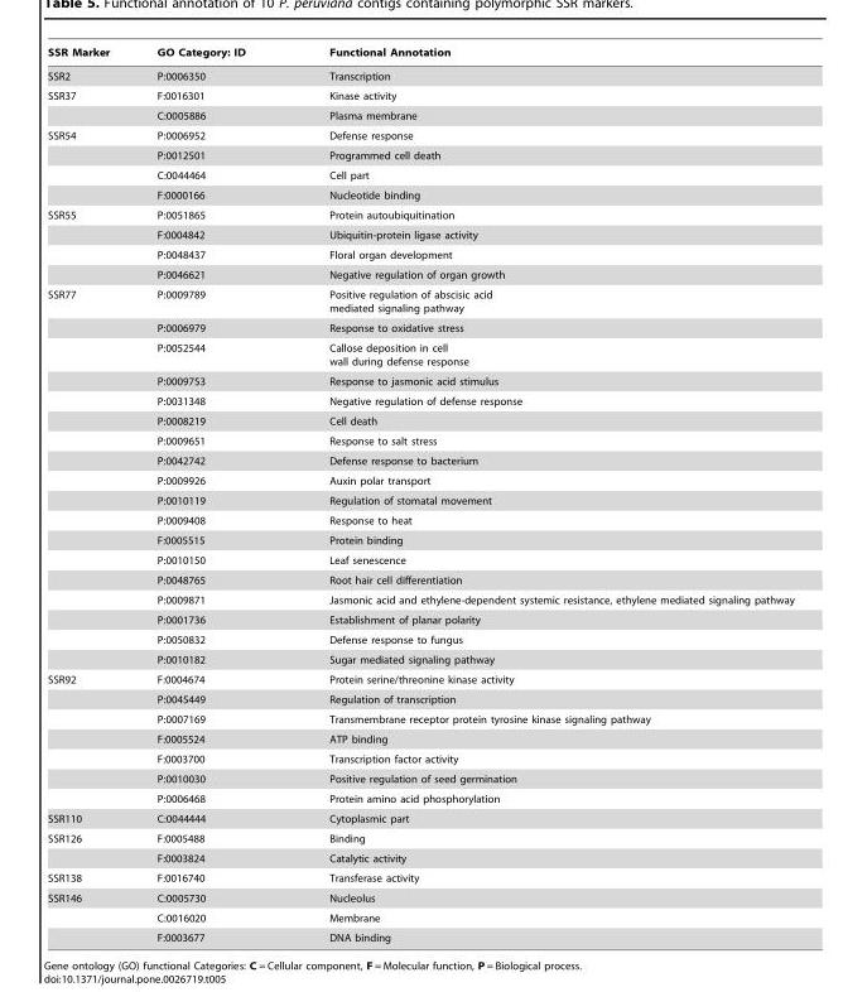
<table><thead><tr><td>SSR Marker</td><td>GO Category: ID</td><td>Functional Annotation</td></tr></thead><tbody><tr><td>SSR2</td><td>P:0006350</td><td>Transcription</td></tr><tr><td rowspan="2">SSR37</td><td>F:0016301</td><td>Kinase activity</td></tr><tr><td>C:0005886</td><td>Plasma membrane</td></tr><tr><td rowspan="4">SSR54</td><td>P:0006952</td><td>Defense response</td></tr><tr><td>P:0012501</td><td>Programmed cell death</td></tr><tr><td>C:0044464</td><td>Cell part</td></tr><tr><td>F:0000166</td><td>Nucleotide binding</td></tr><tr><td rowspan="4">SSR55</td><td>P:0051865</td><td>Protein autoubiquitination</td></tr><tr><td>F:0004842</td><td>Ubiquitin-protein ligase activity</td></tr><tr><td>P:0048437</td><td>Floral organ development</td></tr><tr><td>P:0046621</td><td>Negative regulation of organ growth</td></tr><tr><td rowspan="18">SSR77</td><td>P:0009789</td><td>Positive regulation of abscisic acid mediated signaling pathway</td></tr><tr><td>P:0006979</td><td>Response to oxidative stress</td></tr><tr><td>P:0052544</td><td>Callose deposition in cell wall during defense response</td></tr><tr><td>P:0009753</td><td>Response to jasmonic acid stimulus</td></tr><tr><td>P:0031348</td><td>Negative regulation of defense response</td></tr><tr><td>P:0008219</td><td>Cell death</td></tr><tr><td>P:0009651</td><td>Response to salt stress</td></tr><tr><td>P:0042742</td><td>Defense response to bacterium</td></tr><tr><td>P:0009926</td><td>Auxin polar transport</td></tr><tr><td>P:0010119</td><td>Regulation of stomatal movement</td></tr><tr><td>P:0009408</td><td>Response to heat</td></tr><tr><td>F:0005515</td><td>Protein binding</td></tr><tr><td>P:0010150</td><td>Leaf senescence</td></tr><tr><td>P:0048765</td><td>Root hair cell differentiation</td></tr><tr><td>P:0009871</td><td>Jasmonic acid and ethylene-dependent systemic resistance, ethylene mediated signaling pathway</td></tr><tr><td>P:0001736</td><td>Establishment of planar polarity</td></tr><tr><td>P:0050832</td><td>Defense response to fungus</td></tr><tr><td>P:0010182</td><td>Sugar mediated signaling pathway</td></tr><tr><td rowspan="7">SSR92</td><td>F:0004674</td><td>Protein serine/threonine kinase activity</td></tr><tr><td>P:0045449</td><td>Regulation of transcription</td></tr><tr><td>P:0007169</td><td>Transmembrane receptor protein tyrosine kinase signaling pathway</td></tr><tr><td>F:0005524</td><td>ATP binding</td></tr><tr><td>F:0003700</td><td>Transcription factor activity</td></tr><tr><td>P:0010030</td><td>Positive regulation of seed germination</td></tr><tr><td>P:0006468</td><td>Protein amino acid phosphorylation</td></tr><tr><td>SSR110</td><td>C:0044444</td><td>Cytoplasmic part</td></tr><tr><td rowspan="2">SSR126</td><td>F:0005488</td><td>Binding</td></tr><tr><td>F:0003824</td><td>Catalytic activity</td></tr><tr><td>SSR138</td><td>F:0016740</td><td>Transferase activity</td></tr><tr><td rowspan="3">SSR146</td><td>C:0005730</td><td>Nucleolus</td></tr><tr><td>C:0016020</td><td>Membrane</td></tr><tr><td>F:0003677</td><td>DNA binding</td></tr></tbody></table>